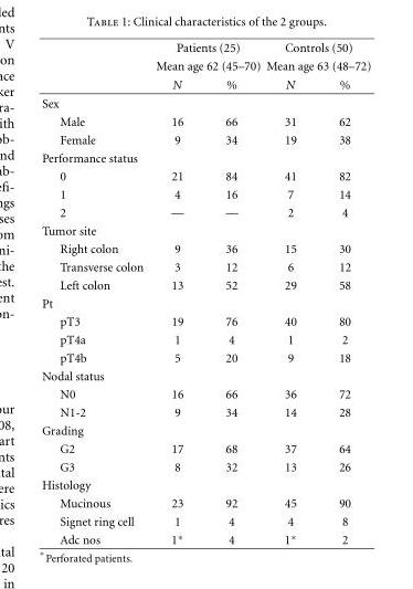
<table><thead><tr><td rowspan="3"></td><td rowspan="2" colspan="2">Patients (25) Mean age 62 (45–70)</td><td rowspan="2" colspan="2">Controls (50) Mean age 63 (48–72)</td></tr><tr></tr><tr><td>N</td><td>%</td><td>N</td><td>%</td></tr></thead><tbody><tr><td colspan="5">Sex</td></tr><tr><td>Male</td><td>16</td><td>66</td><td>31</td><td>62</td></tr><tr><td>Female</td><td>9</td><td>34</td><td>19</td><td>38</td></tr><tr><td colspan="5">Performance status</td></tr><tr><td>0</td><td>21</td><td>84</td><td>41</td><td>82</td></tr><tr><td>1</td><td>4</td><td>16</td><td>7</td><td>14</td></tr><tr><td>2</td><td>—</td><td>—</td><td>2</td><td>4</td></tr><tr><td colspan="5">Tumor site</td></tr><tr><td>Right colon</td><td>9</td><td>36</td><td>15</td><td>30</td></tr><tr><td>Transverse colon</td><td>3</td><td>12</td><td>6</td><td>12</td></tr><tr><td>Left colon</td><td>13</td><td>52</td><td>29</td><td>58</td></tr><tr><td colspan="5">Pt</td></tr><tr><td>pT3</td><td>19</td><td>76</td><td>40</td><td>80</td></tr><tr><td>pT4a</td><td>1</td><td>4</td><td>1</td><td>2</td></tr><tr><td>pT4b</td><td>5</td><td>20</td><td>9</td><td>18</td></tr><tr><td colspan="5">Nodal status</td></tr><tr><td>N0</td><td>16</td><td>66</td><td>36</td><td>72</td></tr><tr><td>N1-2</td><td>9</td><td>34</td><td>14</td><td>28</td></tr><tr><td colspan="5">Grading</td></tr><tr><td>G2</td><td>17</td><td>68</td><td>37</td><td>64</td></tr><tr><td>G3</td><td>8</td><td>32</td><td>13</td><td>26</td></tr><tr><td colspan="5">Histology</td></tr><tr><td>Mucinous</td><td>23</td><td>92</td><td>45</td><td>90</td></tr><tr><td>Signet ring cell</td><td>1</td><td>4</td><td>4</td><td>8</td></tr><tr><td>Adc nos</td><td>1∗</td><td>4</td><td>1∗</td><td>2</td></tr></tbody></table>